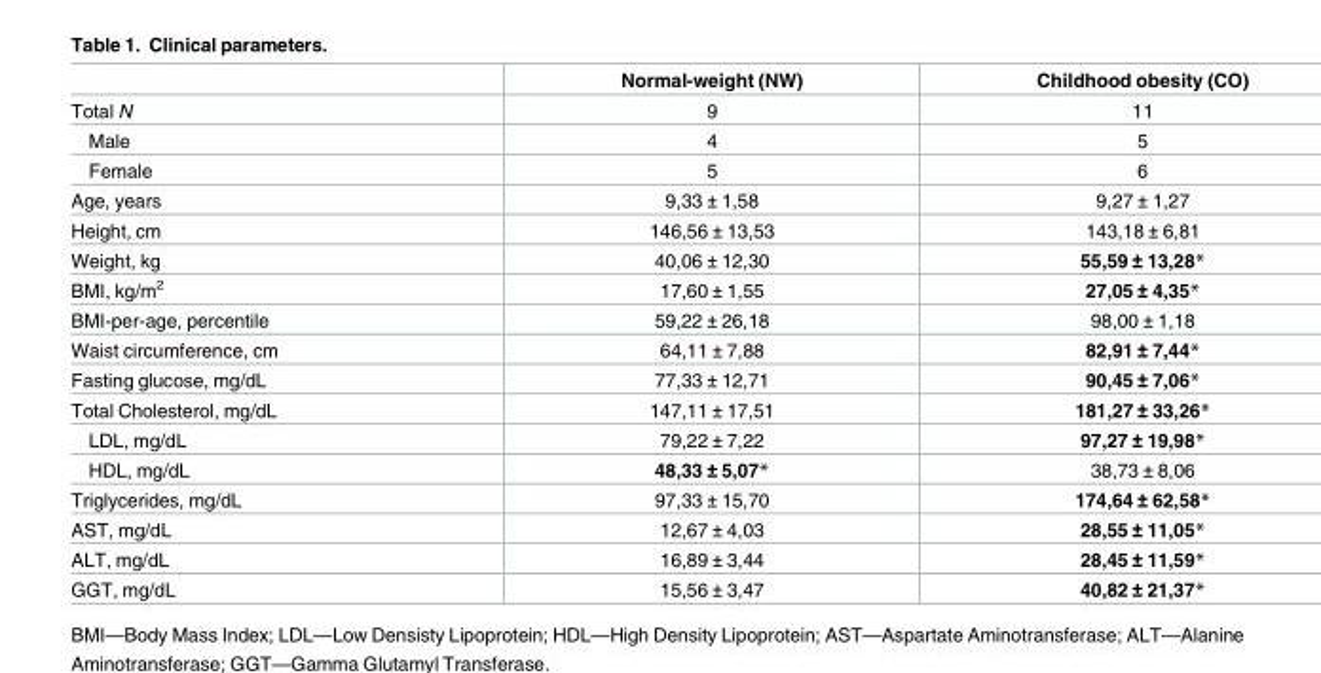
<table><thead><tr><td></td><td>Normal-weight (NW)</td><td>Childhood obesity (CO)</td></tr></thead><tbody><tr><td>Total N</td><td>9</td><td>11</td></tr><tr><td>Male</td><td>4</td><td>5</td></tr><tr><td>Female</td><td>5</td><td>6</td></tr><tr><td>Age, years</td><td>9,33 ± 1,58</td><td>9,27 ± 1,27</td></tr><tr><td>Height, cm</td><td>146,56 ± 13,53</td><td>143,18 ± 6,81</td></tr><tr><td>Weight, kg</td><td>40,06 ± 12,30</td><td>55,59 ± 13,28*</td></tr><tr><td>BMI, kg/m<sup>2</sup></td><td>17,60 ± 1,55</td><td>27,05 ± 4,35*</td></tr><tr><td>BMI-per-age, percentile</td><td>59,22 ± 26,18</td><td>98,00 ± 1,18</td></tr><tr><td>Waist circumference, cm</td><td>64,11 ± 7,88</td><td>82,91 ± 7,44*</td></tr><tr><td>Fasting glucose, mg/dL</td><td>77,33 ± 12,71</td><td>90,45 ± 7,06*</td></tr><tr><td>Total Cholesterol, mg/dL</td><td>147,11 ± 17,51</td><td>181,27 ± 33,26*</td></tr><tr><td>LDL, mg/dL</td><td>79,22 ± 7,22</td><td>97,27 ± 19,98*</td></tr><tr><td>HDL, mg/dL</td><td>48,33 ± 5,07*</td><td>38,73 ± 8,06</td></tr><tr><td>Triglycerides, mg/dL</td><td>97,33 ± 15,70</td><td>174,64 ± 62,58*</td></tr><tr><td>AST, mg/dL</td><td>12,67 ± 4,03</td><td>28,55 ± 11,05*</td></tr><tr><td>ALT, mg/dL</td><td>16,89 ± 3,44</td><td>28,45 ± 11,59*</td></tr><tr><td>GGT, mg/dL</td><td>15,56 ± 3,47</td><td>40,82 ± 21,37*</td></tr></tbody></table>